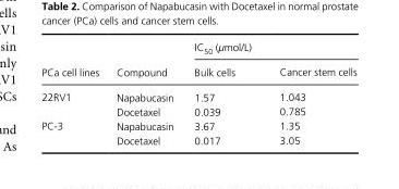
<table><thead><tr><td rowspan="2">PCa cell lines</td><td rowspan="2">Compound</td><td colspan="2">IC<sub>50</sub> (μmol/L)</td></tr><tr><td>Bulk cells</td><td>Cancer stem cells</td></tr></thead><tbody><tr><td rowspan="2">22RV1</td><td>Napabucasin</td><td>1.57</td><td>1.043</td></tr><tr><td>Docetaxel</td><td>0.039</td><td>0.785</td></tr><tr><td rowspan="2">PC- 3</td><td>Napabucasin</td><td>3.67</td><td>1.35</td></tr><tr><td>Docetaxel</td><td>0.017</td><td>3.05</td></tr></tbody></table>